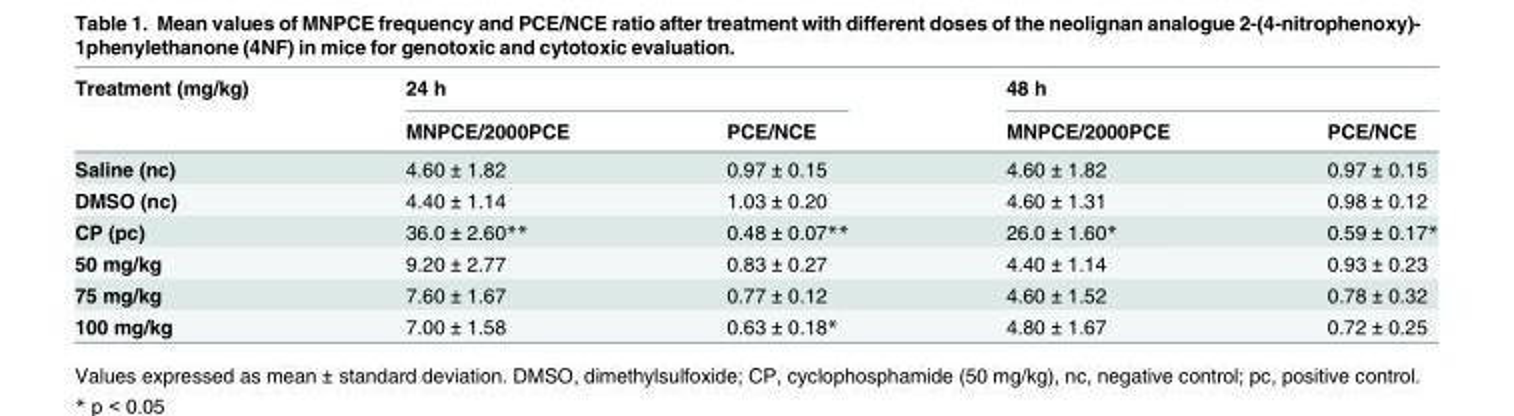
<table><thead><tr><td rowspan="2">Treatment (mg/kg)</td><td colspan="2">24 h</td><td colspan="2">48 h</td></tr><tr><td>MNPCE/2000PCE</td><td>PCE/NCE</td><td>MNPCE/2000PCE</td><td>PCE/NCE</td></tr></thead><tbody><tr><td>Saline (nc)</td><td>4.60 ± 1.82</td><td>0.97 ± 0.15</td><td>4.60 ± 1.82</td><td>0.97 ± 0.15</td></tr><tr><td>DMSO (nc)</td><td>4.40 ± 1.14</td><td>1.03 ± 0.20</td><td>4.60 ± 1.31</td><td>0.98 ± 0.12</td></tr><tr><td>CP (pc)</td><td>36.0 ± 2.60**</td><td>0.48 ± 0.07**</td><td>26.0 ± 1.60*</td><td>0.59 ± 0.17*</td></tr><tr><td>50 mg/kg</td><td>9.20 ± 2.77</td><td>0.83 ± 0.27</td><td>4.40 ± 1.14</td><td>0.93 ± 0.23</td></tr><tr><td>75 mg/kg</td><td>7.60 ± 1.67</td><td>0.77 ± 0.12</td><td>4.60 ± 1.52</td><td>0.78 ± 0.32</td></tr><tr><td>100 mg/kg</td><td>7.00 ± 1.58</td><td>0.63 ± 0.18*</td><td>4.80 ± 1.67</td><td>0.72 ± 0.25</td></tr></tbody></table>